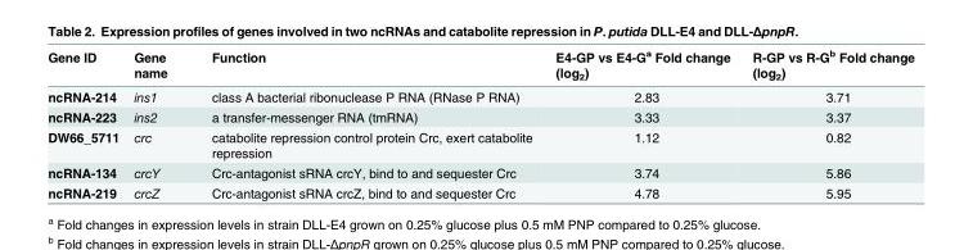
<table><thead><tr><td>Gene ID</td><td>Gene name</td><td>Function</td><td>E4-GP vs E4-G<sup>a</sup> Fold change (log<sub>2</sub>)</td><td>R-GP vs R-G<sup>b</sup> Fold change (log<sub>2</sub>)</td></tr></thead><tbody><tr><td>ncRNA-214</td><td>ins1</td><td>class A bacterial ribonuclease P RNA (RNase P RNA)</td><td>2.83</td><td>3.71</td></tr><tr><td>ncRNA-223</td><td>ins2</td><td>a transfer-messenger RNA (tmRNA)</td><td>3.33</td><td>3.37</td></tr><tr><td>DW66_5711</td><td>crc</td><td>catabolite repression control protein Crc, exert catabolite repression</td><td>1.12</td><td>0.82</td></tr><tr><td>ncRNA-134</td><td>crcY</td><td>Crc-antagonist sRNA crcY, bind to and sequester Crc</td><td>3.74</td><td>5.86</td></tr><tr><td>ncRNA-219</td><td>crcZ</td><td>Crc-antagonist sRNA crcZ, bind to and sequester Crc</td><td>4.78</td><td>5.95</td></tr></tbody></table>